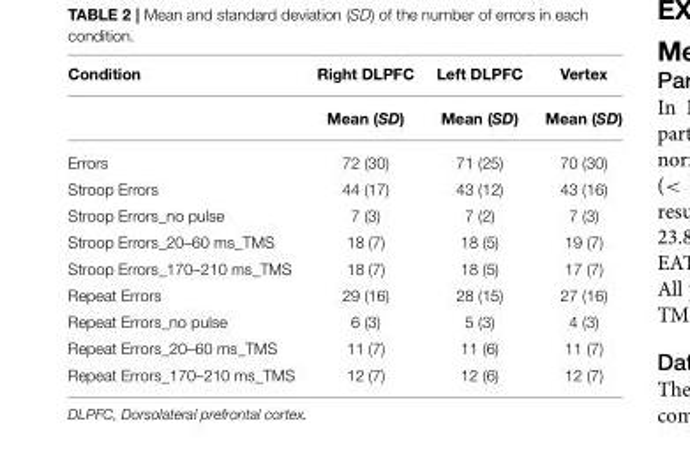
<table><thead><tr><td>Condition</td><td>Right DLPFC</td><td>Left DLPFC</td><td>Vertex</td></tr></thead><tbody><tr><td></td><td>Mean (SD)</td><td>Mean (SD)</td><td>Mean (SD)</td></tr><tr><td>Errors</td><td>72 (30)</td><td>71 (25)</td><td>70 (30)</td></tr><tr><td>Stroop Errors</td><td>44 (17)</td><td>43 (12)</td><td>43 (16)</td></tr><tr><td>Stroop Errors_no pulse</td><td>7 (3)</td><td>7 (2)</td><td>7 (3)</td></tr><tr><td>Stroop Errors_20–60 ms_TMS</td><td>18 (7)</td><td>18 (5)</td><td>19 (7)</td></tr><tr><td>Stroop Errors_170–210 ms_TMS</td><td>18 (7)</td><td>18 (5)</td><td>17 (7)</td></tr><tr><td>Repeat Errors</td><td>29 (16)</td><td>28 (15)</td><td>27 (16)</td></tr><tr><td>Repeat Errors_no pulse</td><td>6 (3)</td><td>5 (3)</td><td>4 (3)</td></tr><tr><td>Repeat Errors_20–60 ms_TMS</td><td>11 (7)</td><td>11 (6)</td><td>11 (7)</td></tr><tr><td>Repeat Errors_170–210 ms_TMS</td><td>12 (7)</td><td>12 (6)</td><td>12 (7)</td></tr></tbody></table>